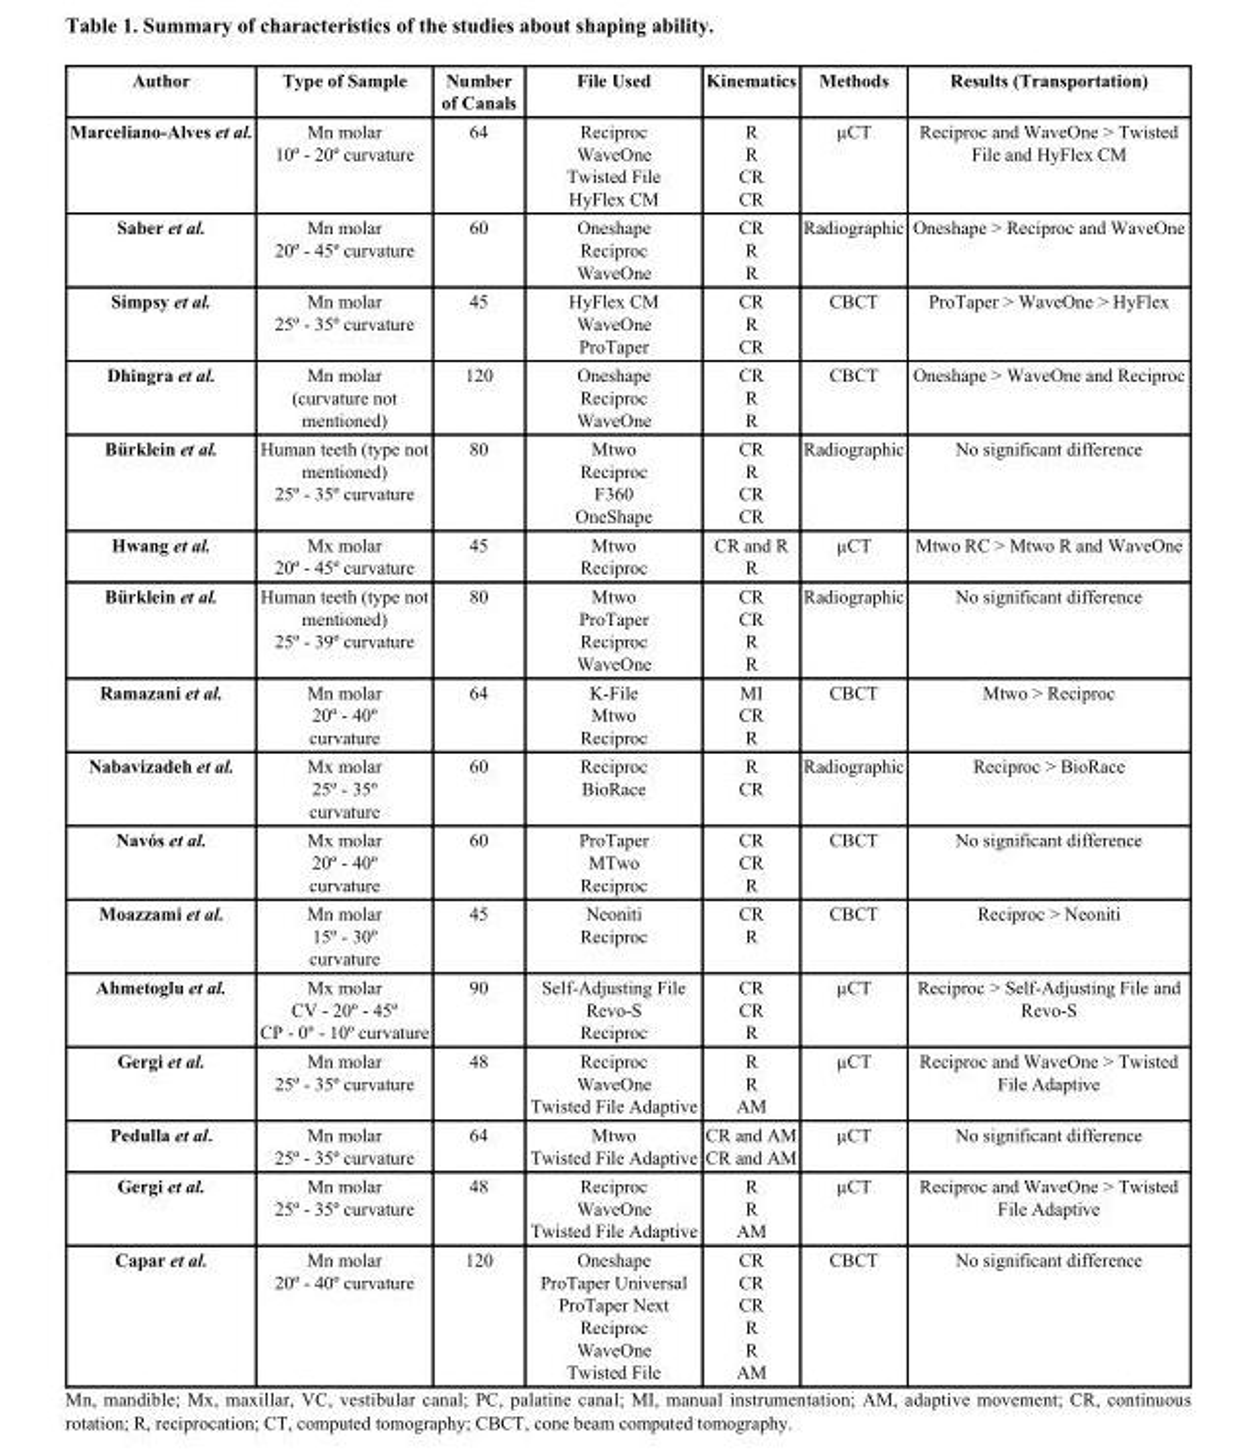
<table><thead><tr><td>Author</td><td>Type of Sample</td><td>Number of Canals</td><td>File Used</td><td>Kinematics</td><td>Methods</td><td>Results (Transportation)</td></tr></thead><tbody><tr><td>Marceliano-Alves et al.</td><td>Mn molar 10º - 20º curvature</td><td>64</td><td>Reciproc WaveOne Twisted File HyFlex CM</td><td>R R CR CR</td><td>µCT</td><td>Reciproc and WaveOne &gt; Twisted File and HyFlex CM</td></tr><tr><td>Saber et al.</td><td>Mn molar 20º - 45º curvature</td><td>60</td><td>Oneshape Reciproc WaveOne</td><td>CR R R</td><td>Radiographic</td><td>Oneshape &gt; Reciproc and WaveOne</td></tr><tr><td>Simpsy et al.</td><td>Mn molar 25º - 35º curvature</td><td>45</td><td>HyFlex CM WaveOne ProTaper</td><td>CR R CR</td><td>CBCT</td><td>ProTaper &gt; WaveOne &gt; HyFlex</td></tr><tr><td>Dhingra et al.</td><td>Mn molar (curvature not mentioned)</td><td>120</td><td>Oneshape Reciproc WaveOne</td><td>CR R R</td><td>CBCT</td><td>Oneshape &gt; WaveOne and Reciproc</td></tr><tr><td>Bürklein et al.</td><td>Human teeth (type not mentioned) 25º - 35º curvature</td><td>80</td><td>Mtwo Reciproc F360 OneShape</td><td>CR R CR CR</td><td>Radiographic</td><td>No significant difference</td></tr><tr><td>Hwang et al.</td><td>Mx molar 20º - 45º curvature</td><td>45</td><td>Mtwo Reciproc</td><td>CR and R R</td><td>µCT</td><td>Mtwo RC &gt; Mtwo R and WaveOne</td></tr><tr><td>Bürklein et al.</td><td>Human teeth (type not mentioned) 25º - 39º curvature</td><td>80</td><td>Mtwo ProTaper Reciproc WaveOne</td><td>CR CR R R</td><td>Radiographic</td><td>No significant difference</td></tr><tr><td>Ramazani et al.</td><td>Mn molar 20º - 40º curvature</td><td>64</td><td>K-File Mtwo Reciproc</td><td>MI CR R</td><td>CBCT</td><td>Mtwo &gt; Reciproc</td></tr><tr><td>Nabavizadeh et al.</td><td>Mx molar 25º - 35º curvature</td><td>60</td><td>Reciproc BioRace</td><td>R CR</td><td>Radiographic</td><td>Reciproc &gt; BioRace</td></tr><tr><td>Navós et al.</td><td>Mx molar 20º - 40º curvature</td><td>60</td><td>ProTaper MTwo Reciproc</td><td>CR CR R</td><td>CBCT</td><td>No significant difference</td></tr><tr><td>Moazzami et al.</td><td>Mn molar 15º - 30º curvature</td><td>45</td><td>Neoniti Reciproc</td><td>CR R</td><td>CBCT</td><td>Reciproc &gt; Neoniti</td></tr><tr><td>Ahmetoglu et al.</td><td>Mx molar CV - 20º - 45º CP - 0º - 10º curvature</td><td>90</td><td>Self-Adjusting File Revo-S Reciproc</td><td>CR CR R</td><td>µCT</td><td>Reciproc &gt; Self-Adjusting File and Revo-S</td></tr><tr><td>Gergi et al.</td><td>Mn molar 25º - 35º curvature</td><td>48</td><td>Reciproc WaveOne Twisted File Adaptive</td><td>R R AM</td><td>µCT</td><td>Reciproc and WaveOne &gt; Twisted File Adaptive</td></tr><tr><td>Pedulla et al.</td><td>Mn molar 25º - 35º curvature</td><td>64</td><td>Mtwo Twisted File Adaptive</td><td>CR and AM CR and AM</td><td>µCT</td><td>No significant difference</td></tr><tr><td>Gergi et al.</td><td>Mn molar 25º - 35º curvature</td><td>48</td><td>Reciproc WaveOne Twisted File Adaptive</td><td>R R AM</td><td>µCT</td><td>Reciproc and WaveOne &gt; Twisted File Adaptive</td></tr><tr><td>Capar et al.</td><td>Mn molar 20º - 40º curvature</td><td>120</td><td>Oneshape ProTaper Universal ProTaper Next Reciproc WaveOne Twisted File</td><td>CR CR CR R R AM</td><td>CBCT</td><td>No significant difference</td></tr></tbody></table>